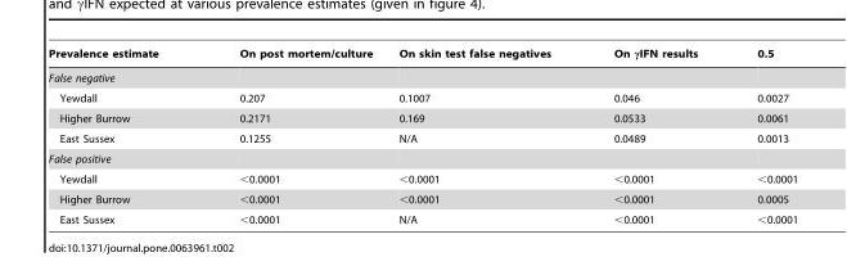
<table><thead><tr><td>Prevalence estimate</td><td>On post mortem/culture</td><td>On skin test false negatives</td><td>On γIFN results</td><td>0.5</td></tr></thead><tbody><tr><td colspan="5">False negative</td></tr><tr><td>Yewdall</td><td>0.207</td><td>0.1007</td><td>0.046</td><td>0.0027</td></tr><tr><td>Higher Burrow</td><td>0.2171</td><td>0.169</td><td>0.0533</td><td>0.0061</td></tr><tr><td>East Sussex</td><td>0.1255</td><td>N/A</td><td>0.0489</td><td>0.0013</td></tr><tr><td colspan="5">False positive</td></tr><tr><td>Yewdall</td><td>&lt;0.0001</td><td>&lt;0.0001</td><td>&lt;0.0001</td><td>&lt;0.0001</td></tr><tr><td>Higher Burrow</td><td>&lt;0.0001</td><td>&lt;0.0001</td><td>&lt;0.0001</td><td>0.0005</td></tr><tr><td>East Sussex</td><td>&lt;0.0001</td><td>N/A</td><td>&lt;0.0001</td><td>&lt;0.0001</td></tr></tbody></table>